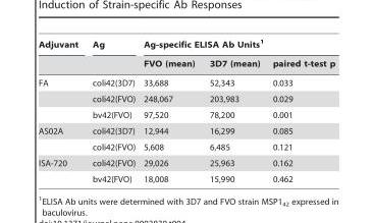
<table><thead><tr><td rowspan="2">Adjuvant</td><td rowspan="2">Ag</td><td colspan="3">Ag-specific ELISA Ab Units<sup>1</sup></td></tr><tr><td>FVO (mean)</td><td>3D7 (mean)</td><td>paired t-test p</td></tr></thead><tbody><tr><td rowspan="3">FA</td><td>coli42(3D7)</td><td>33,688</td><td>52,343</td><td>0.033</td></tr><tr><td>coli42(FVO)</td><td>248,067</td><td>203,983</td><td>0.029</td></tr><tr><td>bv42(FVO)</td><td>97,520</td><td>78,200</td><td>0.001</td></tr><tr><td rowspan="2">AS02A</td><td>coli42(3D7)</td><td>12,944</td><td>16,299</td><td>0.085</td></tr><tr><td>coli42(FVO)</td><td>5,608</td><td>6,485</td><td>0.121</td></tr><tr><td rowspan="2">ISA-720</td><td>coli42(FVO)</td><td>29,026</td><td>25,963</td><td>0.162</td></tr><tr><td>bv42(FVO)</td><td>18,008</td><td>15,990</td><td>0.462</td></tr></tbody></table>